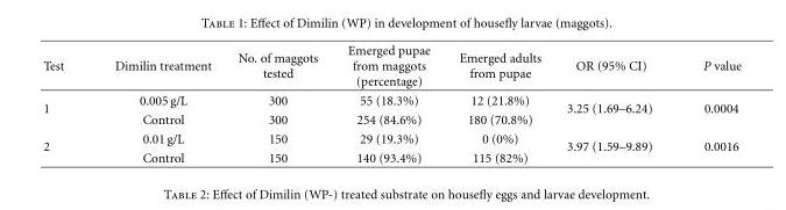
<table><thead><tr><td>Test</td><td>Dimilin treatment</td><td>No. of maggots tested</td><td>Emerged pupae from maggots (percentage)</td><td>Emerged adults from pupae</td><td>OR (95% CI)</td><td>P value</td></tr></thead><tbody><tr><td rowspan="2">1</td><td>0.005 g/L</td><td>300</td><td>55 (18.3%)</td><td>12 (21.8%)</td><td rowspan="2">3.25 (1.69–6.24)</td><td rowspan="2">0.0004</td></tr><tr><td>Control</td><td>300</td><td>254 (84.6%)</td><td>180 (70.8%)</td></tr><tr><td rowspan="2">2</td><td>0.01 g/L</td><td>150</td><td>29 (19.3%)</td><td>0 (0%)</td><td rowspan="2">3.97 (1.59–9.89)</td><td rowspan="2">0.0016</td></tr><tr><td>Control</td><td>150</td><td>140 (93.4%)</td><td>115 (82%)</td></tr></tbody></table>